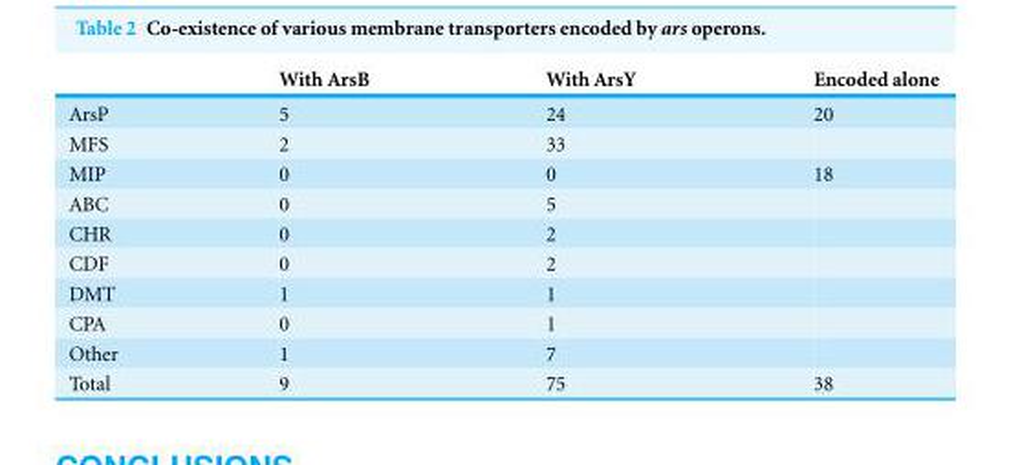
<table><thead><tr><td></td><td>With ArsB</td><td>With ArsY</td><td>Encoded alone</td></tr></thead><tbody><tr><td>ArsP</td><td>5</td><td>24</td><td>20</td></tr><tr><td>MFS</td><td>2</td><td>33</td><td></td></tr><tr><td>MIP</td><td>0</td><td>0</td><td>18</td></tr><tr><td>ABC</td><td>0</td><td>5</td><td></td></tr><tr><td>CHR</td><td>0</td><td>2</td><td></td></tr><tr><td>CDF</td><td>0</td><td>2</td><td></td></tr><tr><td>DMT</td><td>1</td><td>1</td><td></td></tr><tr><td>CPA</td><td>0</td><td>1</td><td></td></tr><tr><td>Other</td><td>1</td><td>7</td><td></td></tr><tr><td>Total</td><td>9</td><td>75</td><td>38</td></tr></tbody></table>